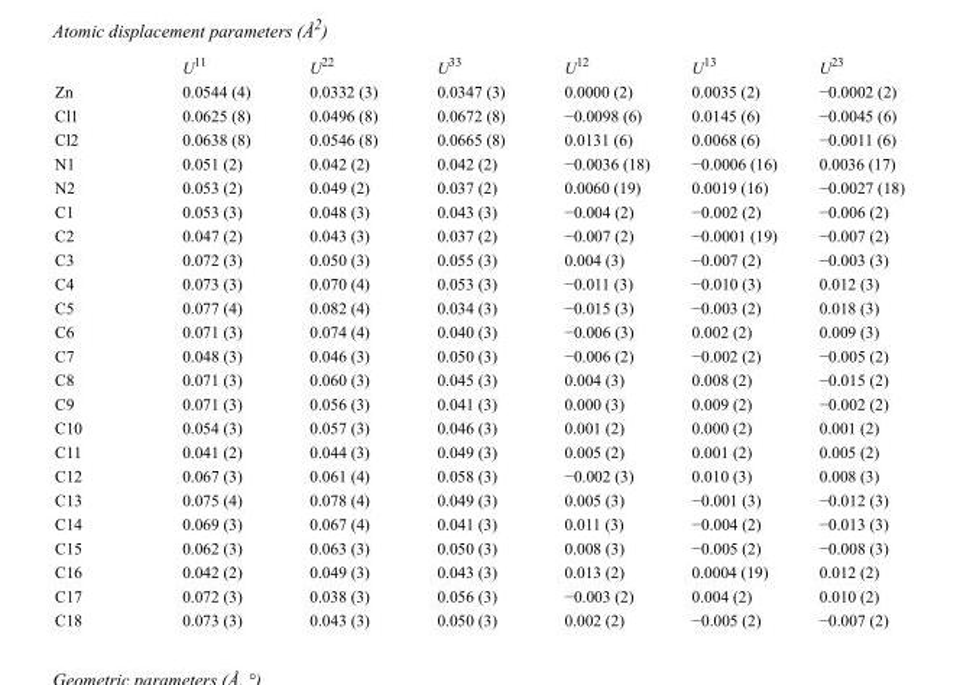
<table><thead><tr><td></td><td>U<sup>11</sup></td><td>U<sup>22</sup></td><td>U<sup>33</sup></td><td>U<sup>12</sup></td><td>U<sup>13</sup></td><td>U<sup>23</sup></td></tr></thead><tbody><tr><td>Zn</td><td>0.0544 (4)</td><td>0.0332 (3)</td><td>0.0347 (3)</td><td>0.0000 (2)</td><td>0.0035 (2)</td><td>−0.0002 (2)</td></tr><tr><td>Cl1</td><td>0.0625 (8)</td><td>0.0496 (8)</td><td>0.0672 (8)</td><td>−0.0098 (6)</td><td>0.0145 (6)</td><td>−0.0045 (6)</td></tr><tr><td>Cl2</td><td>0.0638 (8)</td><td>0.0546 (8)</td><td>0.0665 (8)</td><td>0.0131 (6)</td><td>0.0068 (6)</td><td>−0.0011 (6)</td></tr><tr><td>N1</td><td>0.051 (2)</td><td>0.042 (2)</td><td>0.042 (2)</td><td>−0.0036 (18)</td><td>−0.0006 (16)</td><td>0.0036 (17)</td></tr><tr><td>N2</td><td>0.053 (2)</td><td>0.049 (2)</td><td>0.037 (2)</td><td>0.0060 (19)</td><td>0.0019 (16)</td><td>−0.0027 (18)</td></tr><tr><td>C1</td><td>0.053 (3)</td><td>0.048 (3)</td><td>0.043 (3)</td><td>−0.004 (2)</td><td>−0.002 (2)</td><td>−0.006 (2)</td></tr><tr><td>C2</td><td>0.047 (2)</td><td>0.043 (3)</td><td>0.037 (2)</td><td>−0.007 (2)</td><td>−0.0001 (19)</td><td>−0.007 (2)</td></tr><tr><td>C3</td><td>0.072 (3)</td><td>0.050 (3)</td><td>0.055 (3)</td><td>0.004 (3)</td><td>−0.007 (2)</td><td>−0.003 (3)</td></tr><tr><td>C4</td><td>0.073 (3)</td><td>0.070 (4)</td><td>0.053 (3)</td><td>−0.011 (3)</td><td>−0.010 (3)</td><td>0.012 (3)</td></tr><tr><td>C5</td><td>0.077 (4)</td><td>0.082 (4)</td><td>0.034 (3)</td><td>−0.015 (3)</td><td>−0.003 (2)</td><td>0.018 (3)</td></tr><tr><td>C6</td><td>0.071 (3)</td><td>0.074 (4)</td><td>0.040 (3)</td><td>−0.006 (3)</td><td>0.002 (2)</td><td>0.009 (3)</td></tr><tr><td>C7</td><td>0.048 (3)</td><td>0.046 (3)</td><td>0.050 (3)</td><td>−0.006 (2)</td><td>−0.002 (2)</td><td>−0.005 (2)</td></tr><tr><td>C8</td><td>0.071 (3)</td><td>0.060 (3)</td><td>0.045 (3)</td><td>0.004 (3)</td><td>0.008 (2)</td><td>−0.015 (2)</td></tr><tr><td>C9</td><td>0.071 (3)</td><td>0.056 (3)</td><td>0.041 (3)</td><td>0.000 (3)</td><td>0.009 (2)</td><td>−0.002 (2)</td></tr><tr><td>C10</td><td>0.054 (3)</td><td>0.057 (3)</td><td>0.046 (3)</td><td>0.001 (2)</td><td>0.000 (2)</td><td>0.001 (2)</td></tr><tr><td>C11</td><td>0.041 (2)</td><td>0.044 (3)</td><td>0.049 (3)</td><td>0.005 (2)</td><td>0.001 (2)</td><td>0.005 (2)</td></tr><tr><td>C12</td><td>0.067 (3)</td><td>0.061 (4)</td><td>0.058 (3)</td><td>−0.002 (3)</td><td>0.010 (3)</td><td>0.008 (3)</td></tr><tr><td>C13</td><td>0.075 (4)</td><td>0.078 (4)</td><td>0.049 (3)</td><td>0.005 (3)</td><td>−0.001 (3)</td><td>−0.012 (3)</td></tr><tr><td>C14</td><td>0.069 (3)</td><td>0.067 (4)</td><td>0.041 (3)</td><td>0.011 (3)</td><td>−0.004 (2)</td><td>−0.013 (3)</td></tr><tr><td>C15</td><td>0.062 (3)</td><td>0.063 (3)</td><td>0.050 (3)</td><td>0.008 (3)</td><td>−0.005 (2)</td><td>−0.008 (3)</td></tr><tr><td>C16</td><td>0.042 (2)</td><td>0.049 (3)</td><td>0.043 (3)</td><td>0.013 (2)</td><td>0.0004 (19)</td><td>0.012 (2)</td></tr><tr><td>C17</td><td>0.072 (3)</td><td>0.038 (3)</td><td>0.056 (3)</td><td>−0.003 (2)</td><td>0.004 (2)</td><td>0.010 (2)</td></tr><tr><td>C18</td><td>0.073 (3)</td><td>0.043 (3)</td><td>0.050 (3)</td><td>0.002 (2)</td><td>−0.005 (2)</td><td>−0.007 (2)</td></tr></tbody></table>